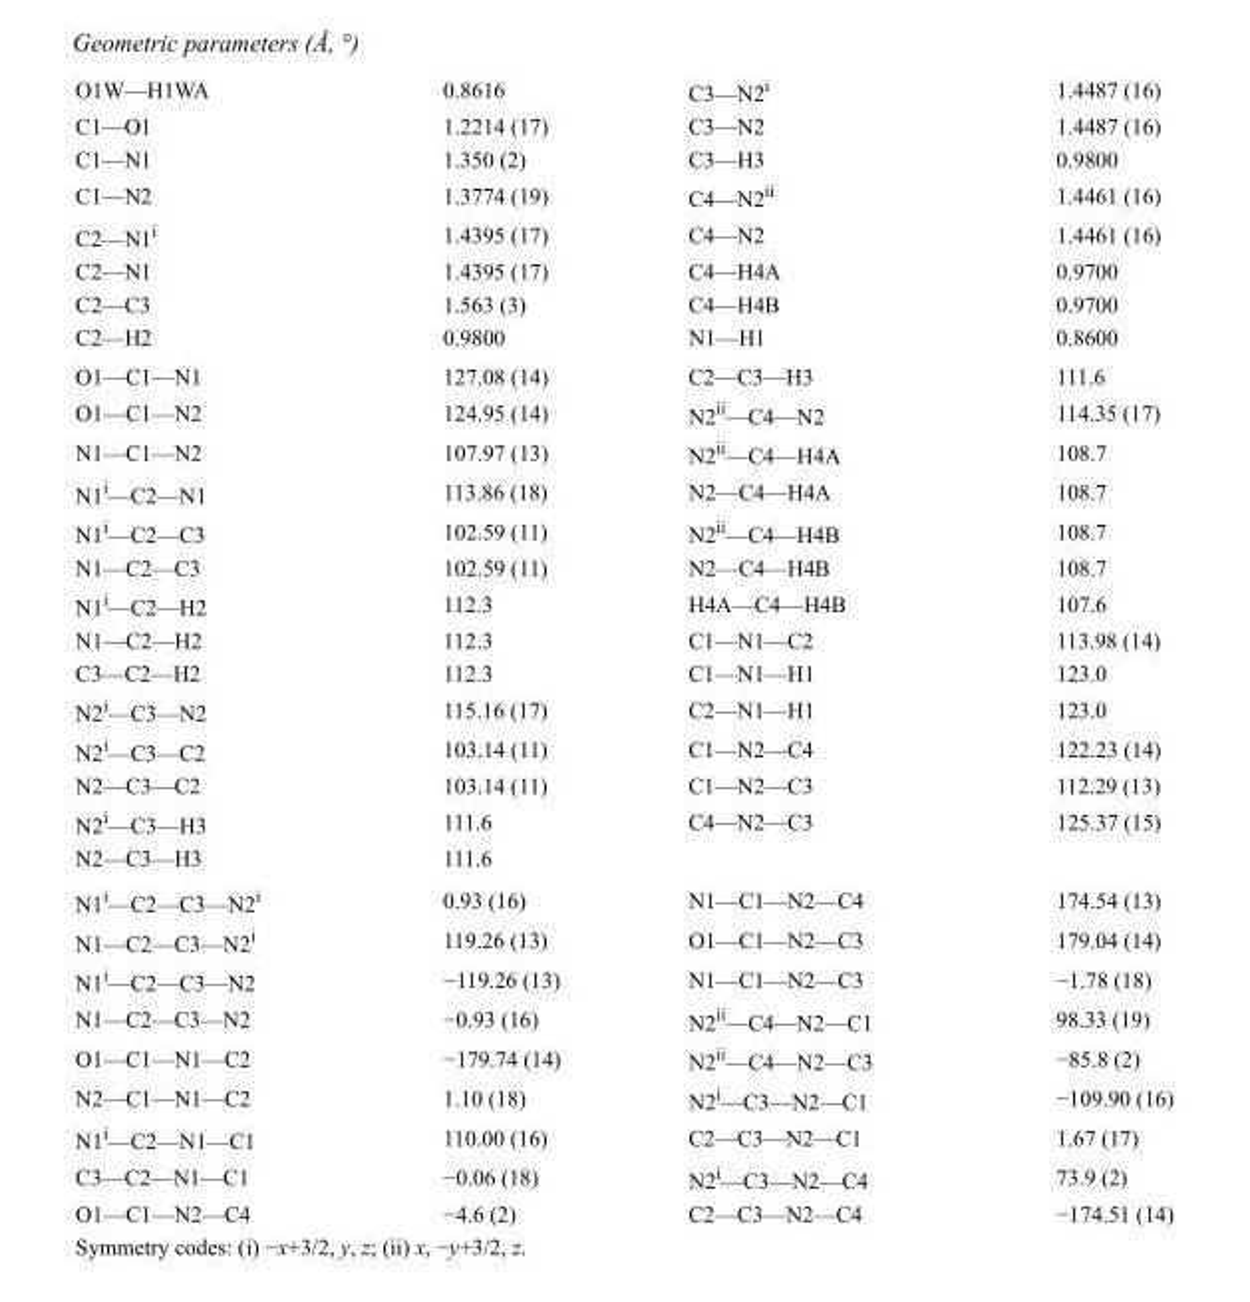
<table><tbody><tr><td>O1W—H1WA</td><td>0.8616</td><td>C3—N2<sup>i</sup></td><td>1.4487 (16)</td></tr><tr><td>C1—O1</td><td>1.2214 (17)</td><td>C3—N2</td><td>1.4487 (16)</td></tr><tr><td>C1—N1</td><td>1.350 (2)</td><td>C3—H3</td><td>0.9800</td></tr><tr><td>C1—N2</td><td>1.3774 (19)</td><td>C4—N2<sup>ii</sup></td><td>1.4461 (16)</td></tr><tr><td>C2—N1<sup>i</sup></td><td>1.4395 (17)</td><td>C4—N2</td><td>1.4461 (16)</td></tr><tr><td>C2—N1</td><td>1.4395 (17)</td><td>C4—H4A</td><td>0.9700</td></tr><tr><td>C2—C3</td><td>1.563 (3)</td><td>C4—H4B</td><td>0.9700</td></tr><tr><td>C2—H2</td><td>0.9800</td><td>N1—H1</td><td>0.8600</td></tr><tr><td>O1—C1—N1</td><td>127.08 (14)</td><td>C2—C3—H3</td><td>111.6</td></tr><tr><td>O1—C1—N2</td><td>124.95 (14)</td><td>N2<sup>ii</sup>—C4—N2</td><td>114.35 (17)</td></tr><tr><td>N1—C1—N2</td><td>107.97 (13)</td><td>N2<sup>ii</sup>—C4—H4A</td><td>108.7</td></tr><tr><td>N1<sup>i</sup>—C2—N1</td><td>113.86 (18)</td><td>N2—C4—H4A</td><td>108.7</td></tr><tr><td>N1<sup>i</sup>—C2—C3</td><td>102.59 (11)</td><td>N2<sup>ii</sup>—C4—H4B</td><td>108.7</td></tr><tr><td>N1—C2—C3</td><td>102.59 (11)</td><td>N2—C4—H4B</td><td>108.7</td></tr><tr><td>N1<sup>i</sup>—C2—H2</td><td>112.3</td><td>H4A—C4—H4B</td><td>107.6</td></tr><tr><td>N1—C2—H2</td><td>112.3</td><td>C1—N1—C2</td><td>113.98 (14)</td></tr><tr><td>C3—C2—H2</td><td>112.3</td><td>C1—N1—H1</td><td>123.0</td></tr><tr><td>N2<sup>i</sup>—C3—N2</td><td>115.16 (17)</td><td>C2—N1—H1</td><td>123.0</td></tr><tr><td>N2<sup>i</sup>—C3—C2</td><td>103.14 (11)</td><td>C1—N2—C4</td><td>122.23 (14)</td></tr><tr><td>N2—C3—C2</td><td>103.14 (11)</td><td>C1—N2—C3</td><td>112.29 (13)</td></tr><tr><td>N2<sup>i</sup>—C3—H3</td><td>111.6</td><td>C4—N2—C3</td><td>125.37 (15)</td></tr><tr><td>N2—C3—H3</td><td>111.6</td><td></td><td></td></tr><tr><td>N1<sup>i</sup>—C2—C3—N2<sup>i</sup></td><td>0.93 (16)</td><td>N1—C1—N2—C4</td><td>174.54 (13)</td></tr><tr><td>N1—C2—C3—N2<sup>i</sup></td><td>119.26 (13)</td><td>O1—C1—N2—C3</td><td>179.04 (14)</td></tr><tr><td>N1<sup>i</sup>—C2—C3—N2</td><td>−119.26 (13)</td><td>N1—C1—N2—C3</td><td>−1.78 (18)</td></tr><tr><td>N1—C2—C3—N2</td><td>−0.93 (16)</td><td>N2<sup>ii</sup>—C4—N2—C1</td><td>98.33 (19)</td></tr><tr><td>O1—C1—N1—C2</td><td>−179.74 (14)</td><td>N2<sup>ii</sup>—C4—N2—C3</td><td>−85.8 (2)</td></tr><tr><td>N2—C1—N1—C2</td><td>1.10 (18)</td><td>N2<sup>i</sup>—C3—N2—C1</td><td>−109.90 (16)</td></tr><tr><td>N1<sup>i</sup>—C2—N1—C1</td><td>110.00 (16)</td><td>C2—C3—N2—C1</td><td>1.67 (17)</td></tr><tr><td>C3—C2—N1—C1</td><td>−0.06 (18)</td><td>N2<sup>i</sup>—C3—N2—C4</td><td>73.9 (2)</td></tr><tr><td>O1—C1—N2—C4</td><td>−4.6 (2)</td><td>C2—C3—N2—C4</td><td>−174.51 (14)</td></tr></tbody></table>